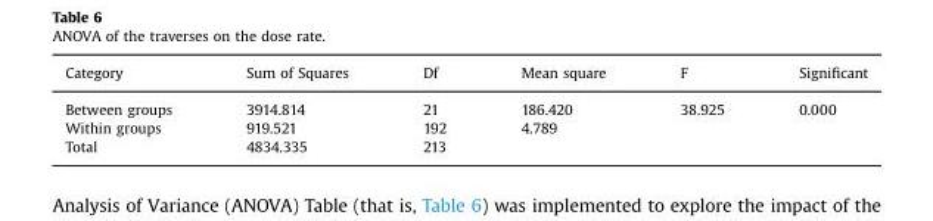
<table><thead><tr><td>Category</td><td>Sum of Squares</td><td>Df</td><td>Mean square</td><td>F</td><td>Significant</td></tr></thead><tbody><tr><td>Between groups</td><td>3914.814</td><td>21</td><td>186.420</td><td>38.925</td><td>0.000</td></tr><tr><td>Within groups</td><td>919.521</td><td>192</td><td>4.789</td><td></td><td></td></tr><tr><td>Total</td><td>4834.335</td><td>213</td><td></td><td></td><td></td></tr></tbody></table>